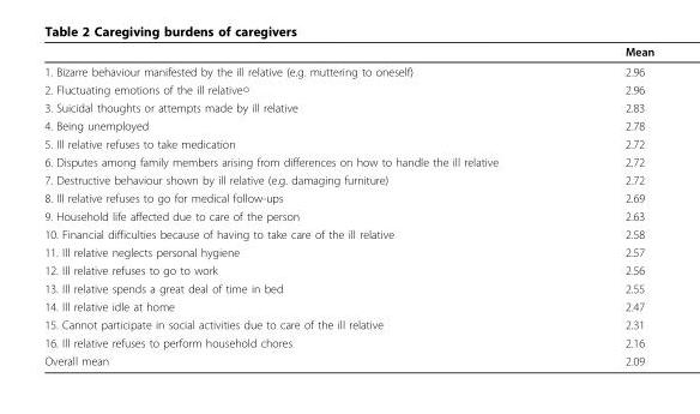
<table><thead><tr><td></td><td>Mean</td></tr></thead><tbody><tr><td>1. Bizarre behaviour manifested by the ill relative (e.g. muttering to oneself)</td><td>2.96</td></tr><tr><td>2. Fluctuating emotions of the ill relative○</td><td>2.96</td></tr><tr><td>3. Suicidal thoughts or attempts made by ill relative</td><td>2.83</td></tr><tr><td>4. Being unemployed</td><td>2.78</td></tr><tr><td>5. Ill relative refuses to take medication</td><td>2.72</td></tr><tr><td>6. Disputes among family members arising from differences on how to handle the ill relative</td><td>2.72</td></tr><tr><td>7. Destructive behaviour shown by ill relative (e.g. damaging furniture)</td><td>2.72</td></tr><tr><td>8. Ill relative refuses to go for medical follow-ups</td><td>2.69</td></tr><tr><td>9. Household life affected due to care of the person</td><td>2.63</td></tr><tr><td>10. Financial difficulties because of having to take care of the ill relative</td><td>2.58</td></tr><tr><td>11. Ill relative neglects personal hygiene</td><td>2.57</td></tr><tr><td>12. Ill relative refuses to go to work</td><td>2.56</td></tr><tr><td>13. Ill relative spends a great deal of time in bed</td><td>2.55</td></tr><tr><td>14. Ill relative idle at home</td><td>2.47</td></tr><tr><td>15. Cannot participate in social activities due to care of the ill relative</td><td>2.31</td></tr><tr><td>16. Ill relative refuses to perform household chores</td><td>2.16</td></tr><tr><td>Overall mean</td><td>2.09</td></tr></tbody></table>